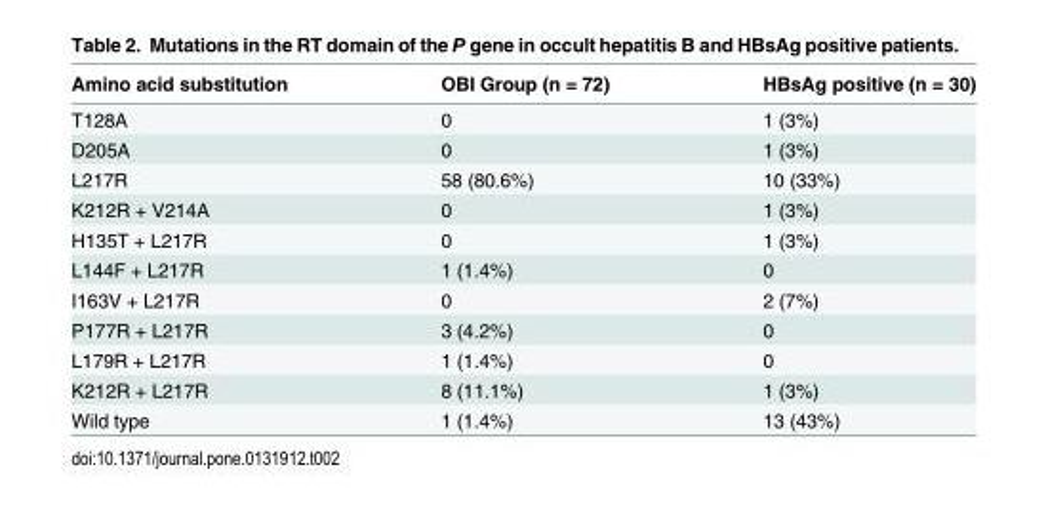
<table><thead><tr><td>Amino acid substitution</td><td>OBI Group (n = 72)</td><td>HBsAg positive (n = 30)</td></tr></thead><tbody><tr><td>T128A</td><td>0</td><td>1 (3%)</td></tr><tr><td>D205A</td><td>0</td><td>1 (3%)</td></tr><tr><td>L217R</td><td>58 (80.6%)</td><td>10 (33%)</td></tr><tr><td>K212R + V214A</td><td>0</td><td>1 (3%)</td></tr><tr><td>H135T + L217R</td><td>0</td><td>1 (3%)</td></tr><tr><td>L144F + L217R</td><td>1 (1.4%)</td><td>0</td></tr><tr><td>I163V + L217R</td><td>0</td><td>2 (7%)</td></tr><tr><td>P177R + L217R</td><td>3 (4.2%)</td><td>0</td></tr><tr><td>L179R + L217R</td><td>1 (1.4%)</td><td>0</td></tr><tr><td>K212R + L217R</td><td>8 (11.1%)</td><td>1 (3%)</td></tr><tr><td>Wild type</td><td>1 (1.4%)</td><td>13 (43%)</td></tr></tbody></table>